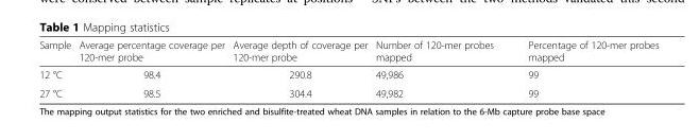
<table><thead><tr><td>Sample</td><td>Average percentage coverage per 120-mer probe</td><td>Average depth of coverage per 120-mer probe</td><td>Number of 120-mer probes mapped</td><td>Percentage of 120-mer probes mapped</td></tr></thead><tbody><tr><td>12 °C</td><td>98.4</td><td>290.8</td><td>49,986</td><td>99</td></tr><tr><td>27 °C</td><td>98.5</td><td>304.4</td><td>49,982</td><td>99</td></tr></tbody></table>